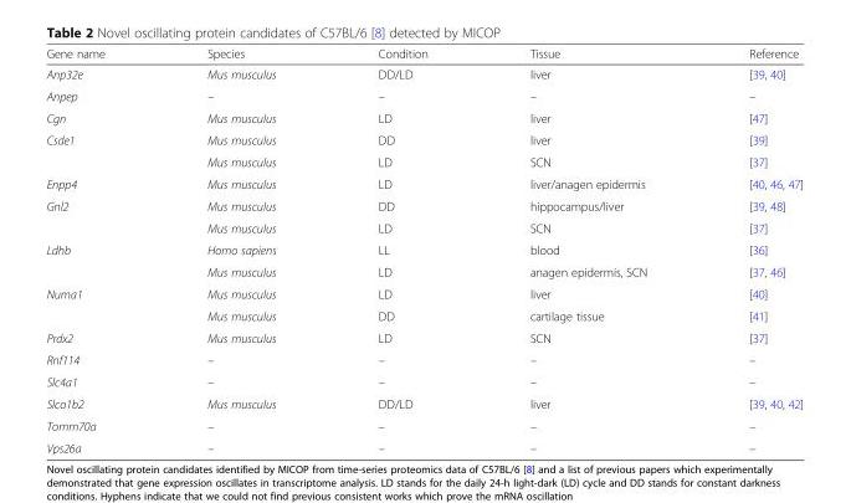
<table><thead><tr><td>Gene name</td><td>Species</td><td>Condition</td><td>Tissue</td><td>Reference</td></tr></thead><tbody><tr><td>Anp32e</td><td>Mus musculus</td><td>DD/LD</td><td>liver</td><td>[39, 40]</td></tr><tr><td>Anpep</td><td>–</td><td>–</td><td>–</td><td>–</td></tr><tr><td>Cgn</td><td>Mus musculus</td><td>LD</td><td>liver</td><td>[47]</td></tr><tr><td rowspan="2">Csde1</td><td>Mus musculus</td><td>DD</td><td>liver</td><td>[39]</td></tr><tr><td>Mus musculus</td><td>LD</td><td>SCN</td><td>[37]</td></tr><tr><td>Enpp4</td><td>Mus musculus</td><td>LD</td><td>liver/anagen epidermis</td><td>[40, 46, 47]</td></tr><tr><td rowspan="2">Gnl2</td><td>Mus musculus</td><td>DD</td><td>hippocampus/liver</td><td>[39, 48]</td></tr><tr><td>Mus musculus</td><td>LD</td><td>SCN</td><td>[37]</td></tr><tr><td rowspan="2">Ldhb</td><td>Homo sapiens</td><td>LL</td><td>blood</td><td>[36]</td></tr><tr><td>Mus musculus</td><td>LD</td><td>anagen epidermis, SCN</td><td>[37, 46]</td></tr><tr><td rowspan="2">Numa1</td><td>Mus musculus</td><td>LD</td><td>liver</td><td>[40]</td></tr><tr><td>Mus musculus</td><td>DD</td><td>cartilage tissue</td><td>[41]</td></tr><tr><td>Prdx2</td><td>Mus musculus</td><td>LD</td><td>SCN</td><td>[37]</td></tr><tr><td>Rnf114</td><td>–</td><td>–</td><td>–</td><td>–</td></tr><tr><td>Slc4a1</td><td>–</td><td>–</td><td>–</td><td>–</td></tr><tr><td>Slco1b2</td><td>Mus musculus</td><td>DD/LD</td><td>liver</td><td>[39, 40, 42]</td></tr><tr><td>Tomm70a</td><td>–</td><td>–</td><td>–</td><td>–</td></tr><tr><td>Vps26a</td><td>–</td><td>–</td><td>–</td><td>–</td></tr></tbody></table>